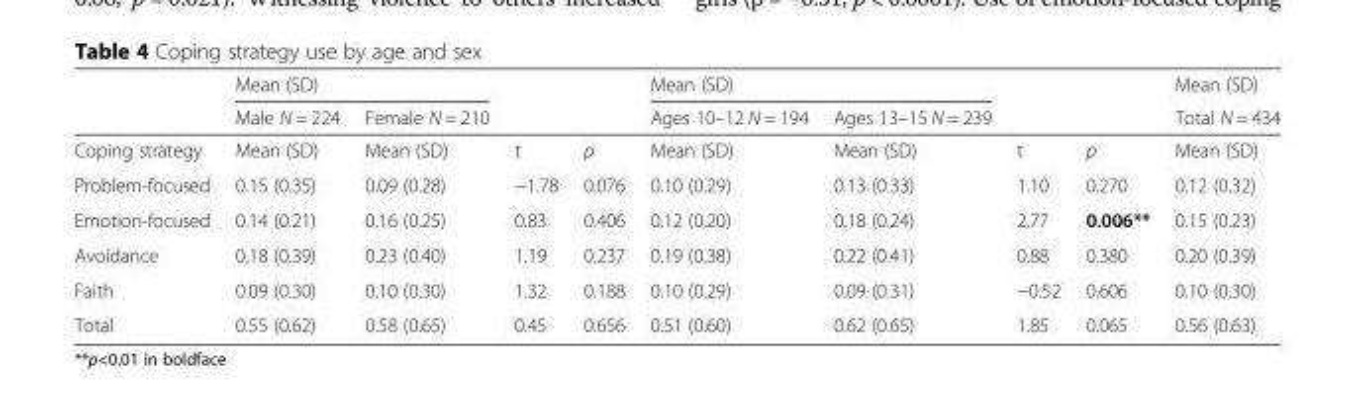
<table><thead><tr><td rowspan="2"></td><td colspan="2">Mean (SD)</td><td rowspan="2"></td><td rowspan="2"></td><td colspan="2">Mean (SD)</td><td rowspan="2"></td><td rowspan="2"></td><td rowspan="2">Mean (SD) Total N = 434</td></tr><tr><td>Male N = 224</td><td>Female N = 210</td><td>Ages 10–12 N = 194</td><td>Ages 13–15 N = 239</td></tr></thead><tbody><tr><td>Coping strategy</td><td>Mean (SD)</td><td>Mean (SD)</td><td>t</td><td>p</td><td>Mean (SD)</td><td>Mean (SD)</td><td>t</td><td>p</td><td>Mean (SD)</td></tr><tr><td>Problem-focused</td><td>0.15 (0.35)</td><td>0.09 (0.28)</td><td>−1.78</td><td>0.076</td><td>0.10 (0.29)</td><td>0.13 (0.33)</td><td>1.10</td><td>0.270</td><td>0.12 (0.32)</td></tr><tr><td>Emotion-focused</td><td>0.14 (0.21)</td><td>0.16 (0.25)</td><td>0.83</td><td>0.406</td><td>0.12 (0.20)</td><td>0.18 (0.24)</td><td>2.77</td><td>0.006**</td><td>0.15 (0.23)</td></tr><tr><td>Avoidance</td><td>0.18 (0.39)</td><td>0.23 (0.40)</td><td>1.19</td><td>0.237</td><td>0.19 (0.38)</td><td>0.22 (0.41)</td><td>0.88</td><td>0.380</td><td>0.20 (0.39)</td></tr><tr><td>Faith</td><td>0.09 (0.30)</td><td>0.10 (0.30)</td><td>1.32</td><td>0.188</td><td>0.10 (0.29)</td><td>0.09 (0.31)</td><td>−0.52</td><td>0.606</td><td>0.10 (0.30)</td></tr><tr><td>Total</td><td>0.55 (0.62)</td><td>0.58 (0.65)</td><td>0.45</td><td>0.656</td><td>0.51 (0.60)</td><td>0.62 (0.65)</td><td>1.85</td><td>0.065</td><td>0.56 (0.63)</td></tr></tbody></table>